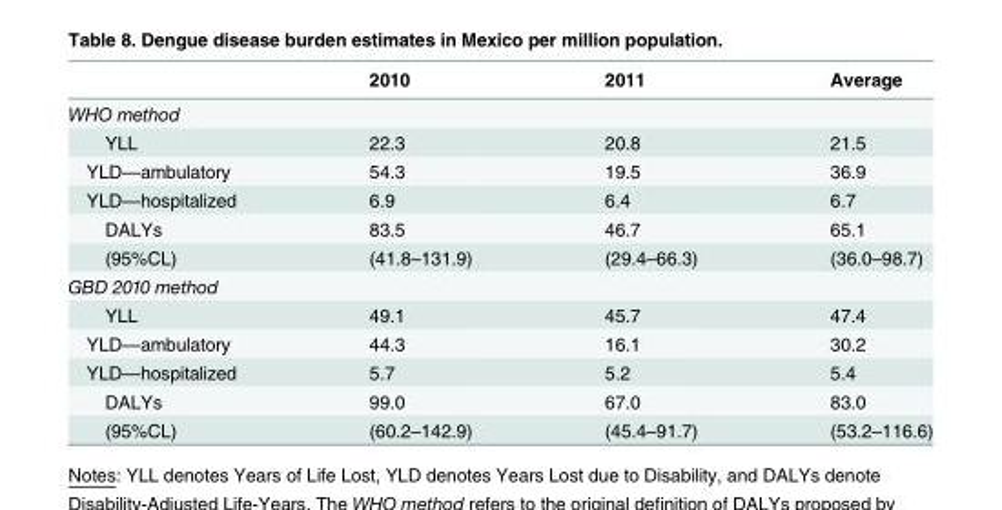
<table><thead><tr><td></td><td>2010</td><td>2011</td><td>Average</td></tr></thead><tbody><tr><td colspan="4">WHO method</td></tr><tr><td>YLL</td><td>22.3</td><td>20.8</td><td>21.5</td></tr><tr><td>YLD—ambulatory</td><td>54.3</td><td>19.5</td><td>36.9</td></tr><tr><td>YLD—hospitalized</td><td>6.9</td><td>6.4</td><td>6.7</td></tr><tr><td>DALYs</td><td>83.5</td><td>46.7</td><td>65.1</td></tr><tr><td>(95%CL)</td><td>(41.8–131.9)</td><td>(29.4–66.3)</td><td>(36.0–98.7)</td></tr><tr><td colspan="4">GBD 2010 method</td></tr><tr><td>YLL</td><td>49.1</td><td>45.7</td><td>47.4</td></tr><tr><td>YLD—ambulatory</td><td>44.3</td><td>16.1</td><td>30.2</td></tr><tr><td>YLD—hospitalized</td><td>5.7</td><td>5.2</td><td>5.4</td></tr><tr><td>DALYs</td><td>99.0</td><td>67.0</td><td>83.0</td></tr><tr><td>(95%CL)</td><td>(60.2–142.9)</td><td>(45.4–91.7)</td><td>(53.2–116.6)</td></tr></tbody></table>